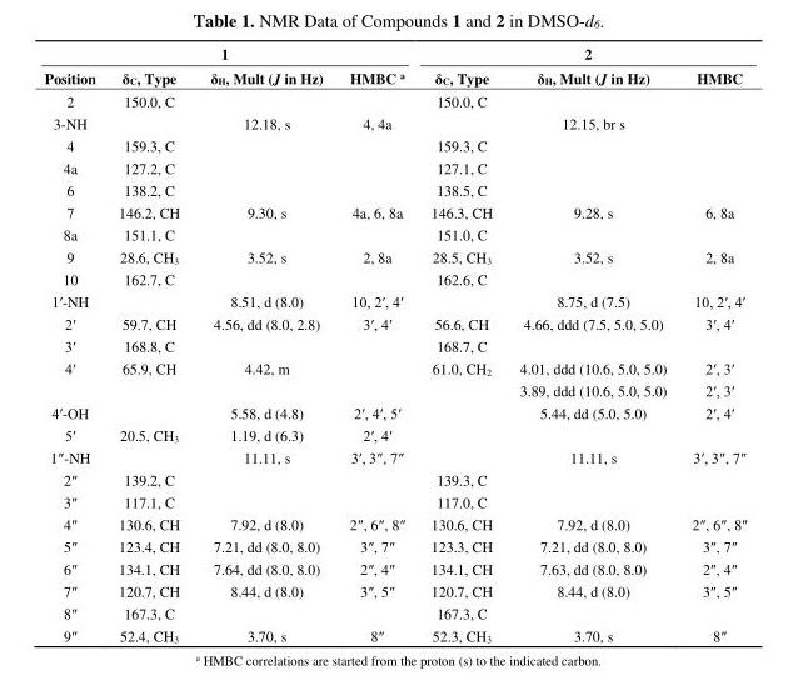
<table><thead><tr><td colspan="4">1</td><td colspan="3">2</td></tr><tr><td>Position</td><td>δ<sub>C</sub>, Type</td><td>δ<sub>H</sub>, Mult (J in Hz)</td><td>HMBC <sup>a</sup></td><td>δ<sub>C</sub>, Type</td><td>δ<sub>H</sub>, Mult (J in Hz)</td><td>HMBC</td></tr></thead><tbody><tr><td>2</td><td>150.0, C</td><td></td><td></td><td>150.0, C</td><td></td><td></td></tr><tr><td>3-NH</td><td></td><td>12.18, s</td><td>4, 4a</td><td></td><td>12.15, br s</td><td></td></tr><tr><td>4</td><td>159.3, C</td><td></td><td></td><td>159.3, C</td><td></td><td></td></tr><tr><td>4a</td><td>127.2, C</td><td></td><td></td><td>127.1, C</td><td></td><td></td></tr><tr><td>6</td><td>138.2, C</td><td></td><td></td><td>138.5, C</td><td></td><td></td></tr><tr><td>7</td><td>146.2, CH</td><td>9.30, s</td><td>4a, 6, 8a</td><td>146.3, CH</td><td>9.28, s</td><td>6, 8a</td></tr><tr><td>8a</td><td>151.1, C</td><td></td><td></td><td>151.0, C</td><td></td><td></td></tr><tr><td>9</td><td>28.6, CH<sub>3</sub></td><td>3.52, s</td><td>2, 8a</td><td>28.5, CH<sub>3</sub></td><td>3.52, s</td><td>2, 8a</td></tr><tr><td>10</td><td>162.7, C</td><td></td><td></td><td>162.6, C</td><td></td><td></td></tr><tr><td>1′-NH</td><td></td><td>8.51, d (8.0)</td><td>10, 2′, 4′</td><td></td><td>8.75, d (7.5)</td><td>10, 2′, 4′</td></tr><tr><td>2′</td><td>59.7, CH</td><td>4.56, dd (8.0, 2.8)</td><td>3′, 4′</td><td>56.6, CH</td><td>4.66, ddd (7.5, 5.0, 5.0)</td><td>3′, 4′</td></tr><tr><td>3′</td><td>168.8, C</td><td></td><td></td><td>168.7, C</td><td></td><td></td></tr><tr><td rowspan="2">4′</td><td>65.9, CH</td><td>4.42, m</td><td></td><td>61.0, CH<sub>2</sub></td><td>4.01, ddd (10.6, 5.0, 5.0)</td><td>2′, 3′</td></tr><tr><td></td><td></td><td></td><td></td><td>3.89, ddd (10.6, 5.0, 5.0)</td><td>2′, 3′</td></tr><tr><td>4′-OH</td><td></td><td>5.58, d (4.8)</td><td>2′, 4′, 5′</td><td></td><td>5.44, dd (5.0, 5.0)</td><td>2′, 4′</td></tr><tr><td>5′</td><td>20.5, CH<sub>3</sub></td><td>1.19, d (6.3)</td><td>2′, 4′</td><td></td><td></td><td></td></tr><tr><td>1″-NH</td><td></td><td>11.11, s</td><td>3′, 3″, 7″</td><td></td><td>11.11, s</td><td>3′, 3″, 7″</td></tr><tr><td>2″</td><td>139.2, C</td><td></td><td></td><td>139.3, C</td><td></td><td></td></tr><tr><td>3″</td><td>117.1, C</td><td></td><td></td><td>117.0, C</td><td></td><td></td></tr><tr><td>4″</td><td>130.6, CH</td><td>7.92, d (8.0)</td><td>2″, 6″, 8″</td><td>130.6, CH</td><td>7.92, d (8.0)</td><td>2″, 6″, 8″</td></tr><tr><td>5″</td><td>123.4, CH</td><td>7.21, dd (8.0, 8.0)</td><td>3″, 7″</td><td>123.3, CH</td><td>7.21, dd (8.0, 8.0)</td><td>3″, 7″</td></tr><tr><td>6″</td><td>134.1, CH</td><td>7.64, dd (8.0, 8.0)</td><td>2″, 4″</td><td>134.1, CH</td><td>7.63, dd (8.0, 8.0)</td><td>2″, 4″</td></tr><tr><td>7″</td><td>120.7, CH</td><td>8.44, d (8.0)</td><td>3″, 5″</td><td>120.7, CH</td><td>8.44, d (8.0)</td><td>3″, 5″</td></tr><tr><td>8″</td><td>167.3, C</td><td></td><td></td><td>167.3, C</td><td></td><td></td></tr><tr><td>9″</td><td>52.4, CH<sub>3</sub></td><td>3.70, s</td><td>8″</td><td>52.3, CH<sub>3</sub></td><td>3.70, s</td><td>8″</td></tr></tbody></table>